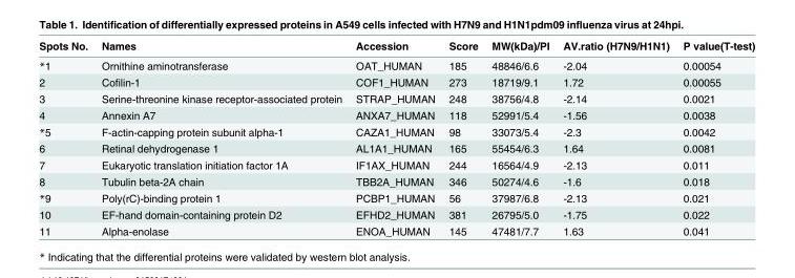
<table><thead><tr><td>Spots No.</td><td>Names</td><td>Accession</td><td>Score</td><td>MW(kDa)/PI</td><td>AV.ratio (H7N9/H1N1)</td><td>P value(T-test)</td></tr></thead><tbody><tr><td>*1</td><td>Ornithine aminotransferase</td><td>OAT_HUMAN</td><td>185</td><td>48846/6.6</td><td>-2.04</td><td>0.00054</td></tr><tr><td>2</td><td>Cofilin-1</td><td>COF1_HUMAN</td><td>273</td><td>18719/9.1</td><td>1.72</td><td>0.00055</td></tr><tr><td>3</td><td>Serine-threonine kinase receptor-associated protein</td><td>STRAP_HUMAN</td><td>248</td><td>38756/4.8</td><td>-2.14</td><td>0.0021</td></tr><tr><td>4</td><td>Annexin A7</td><td>ANXA7_HUMAN</td><td>118</td><td>52991/5.4</td><td>-1.56</td><td>0.0038</td></tr><tr><td>*5</td><td>F-actin-capping protein subunit alpha-1</td><td>CAZA1_HUMAN</td><td>98</td><td>33073/5.4</td><td>-2.3</td><td>0.0042</td></tr><tr><td>6</td><td>Retinal dehydrogenase 1</td><td>AL1A1_HUMAN</td><td>165</td><td>55454/6.3</td><td>1.64</td><td>0.0081</td></tr><tr><td>7</td><td>Eukaryotic translation initiation factor 1A</td><td>IF1AX_HUMAN</td><td>244</td><td>16564/4.9</td><td>-2.13</td><td>0.011</td></tr><tr><td>8</td><td>Tubulin beta-2A chain</td><td>TBB2A_HUMAN</td><td>346</td><td>50274/4.6</td><td>-1.6</td><td>0.018</td></tr><tr><td>*9</td><td>Poly(rC)-binding protein 1</td><td>PCBP1_HUMAN</td><td>56</td><td>37987/6.8</td><td>-2.13</td><td>0.021</td></tr><tr><td>10</td><td>EF-hand domain-containing protein D2</td><td>EFHD2_HUMAN</td><td>381</td><td>26795/5.0</td><td>-1.75</td><td>0.022</td></tr><tr><td>11</td><td>Alpha-enolase</td><td>ENOA_HUMAN</td><td>145</td><td>47481/7.7</td><td>1.63</td><td>0.041</td></tr></tbody></table>